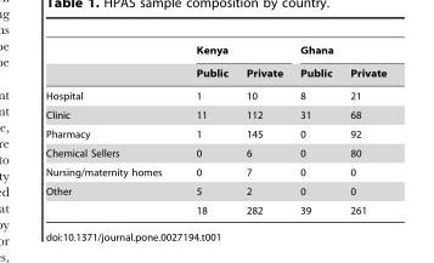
<table><thead><tr><td rowspan="2"></td><td colspan="2">Kenya</td><td colspan="2">Ghana</td></tr><tr><td>Public</td><td>Private</td><td>Public</td><td>Private</td></tr></thead><tbody><tr><td>Hospital</td><td>1</td><td>10</td><td>8</td><td>21</td></tr><tr><td>Clinic</td><td>11</td><td>112</td><td>31</td><td>68</td></tr><tr><td>Pharmacy</td><td>1</td><td>145</td><td>0</td><td>92</td></tr><tr><td>Chemical Sellers</td><td>0</td><td>6</td><td>0</td><td>80</td></tr><tr><td>Nursing/maternity homes</td><td>0</td><td>7</td><td>0</td><td>0</td></tr><tr><td rowspan="2">Other</td><td>5</td><td>2</td><td>0</td><td>0</td></tr><tr><td>18</td><td>282</td><td>39</td><td>261</td></tr></tbody></table>